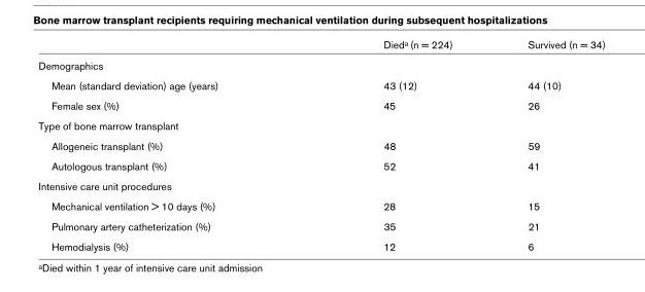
<table><thead><tr><td></td><td>Died<sup>a</sup> (n = 224)</td><td>Survived (n = 34)</td></tr></thead><tbody><tr><td colspan="3">Demographics</td></tr><tr><td>Mean (standard deviation) age (years)</td><td>43 (12)</td><td>44 (10)</td></tr><tr><td>Female sex (%)</td><td>45</td><td>26</td></tr><tr><td colspan="3">Type of bone marrow transplant</td></tr><tr><td>Allogeneic transplant (%)</td><td>48</td><td>59</td></tr><tr><td>Autologous transplant (%)</td><td>52</td><td>41</td></tr><tr><td colspan="3">Intensive care unit procedures</td></tr><tr><td>Mechanical ventilation &gt; 10 days (%)</td><td>28</td><td>15</td></tr><tr><td>Pulmonary artery catheterization (%)</td><td>35</td><td>21</td></tr><tr><td>Hemodialysis (%)</td><td>12</td><td>6</td></tr></tbody></table>